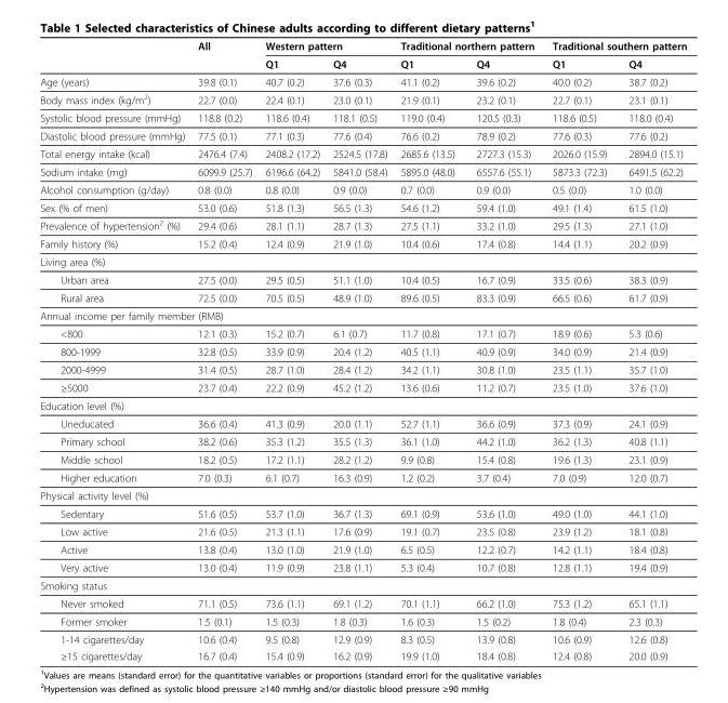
<table><thead><tr><td rowspan="2"></td><td rowspan="2">All</td><td colspan="2">Western pattern</td><td colspan="2">Traditional northern pattern</td><td colspan="2">Traditional southern pattern</td></tr><tr><td>Q1</td><td>Q4</td><td>Q1</td><td>Q4</td><td>Q1</td><td>Q4</td></tr></thead><tbody><tr><td>Age (years)</td><td>39.8 (0.1)</td><td>40.7 (0.2)</td><td>37.6 (0.3)</td><td>41.1 (0.2)</td><td>39.6 (0.2)</td><td>40.0 (0.2)</td><td>38.7 (0.2)</td></tr><tr><td>Body mass index (kg/m<sup>2</sup>)</td><td>22.7 (0.0)</td><td>22.4 (0.1)</td><td>23.0 (0.1)</td><td>21.9 (0.1)</td><td>23.2 (0.1)</td><td>22.7 (0.1)</td><td>23.1 (0.1)</td></tr><tr><td>Systolic blood pressure (mmHg)</td><td>118.8 (0.2)</td><td>118.6 (0.4)</td><td>118.1 (0.5)</td><td>119.0 (0.4)</td><td>120.5 (0.3)</td><td>118.6 (0.5)</td><td>118.0 (0.4)</td></tr><tr><td>Diastolic blood pressure (mmHg)</td><td>77.5 (0.1)</td><td>77.1 (0.3)</td><td>77.6 (0.4)</td><td>76.6 (0.2)</td><td>78.9 (0.2)</td><td>77.6 (0.3)</td><td>77.6 (0.2)</td></tr><tr><td>Total energy intake (kcal)</td><td>2476.4 (7.4)</td><td>2408.2 (17.2)</td><td>2524.5 (17.8)</td><td>2685.6 (13.5)</td><td>2727.3 (15.3)</td><td>2026.0 (15.9)</td><td>2894.0 (15.1)</td></tr><tr><td>Sodium intake (mg)</td><td>6099.9 (25.7)</td><td>6196.6 (64.2)</td><td>5841.0 (58.4)</td><td>5895.0 (48.0)</td><td>6557.6 (55.1)</td><td>5873.3 (72.3)</td><td>6491.5 (62.2)</td></tr><tr><td>Alcohol consumption (g/day)</td><td>0.8 (0.0)</td><td>0.8 (0.0)</td><td>0.9 (0.0)</td><td>0.7 (0.0)</td><td>0.9 (0.0)</td><td>0.5 (0.0)</td><td>1.0 (0.0)</td></tr><tr><td>Sex (% of men)</td><td>53.0 (0.6)</td><td>51.8 (1.3)</td><td>56.5 (1.3)</td><td>54.6 (1.2)</td><td>59.4 (1.0)</td><td>49.1 (1.4)</td><td>61.5 (1.0)</td></tr><tr><td>Prevalence of hypertension<sup>2</sup> (%)</td><td>29.4 (0.6)</td><td>28.1 (1.1)</td><td>28.7 (1.3)</td><td>27.5 (1.1)</td><td>33.2 (1.0)</td><td>29.5 (1.3)</td><td>27.1 (1.0)</td></tr><tr><td>Family history (%)</td><td>15.2 (0.4)</td><td>12.4 (0.9)</td><td>21.9 (1.0)</td><td>10.4 (0.6)</td><td>17.4 (0.8)</td><td>14.4 (1.1)</td><td>20.2 (0.9)</td></tr><tr><td colspan="8">Living area (%)</td></tr><tr><td>Urban area</td><td>27.5 (0.0)</td><td>29.5 (0.5)</td><td>51.1 (1.0)</td><td>10.4 (0.5)</td><td>16.7 (0.9)</td><td>33.5 (0.6)</td><td>38.3 (0.9)</td></tr><tr><td>Rural area</td><td>72.5 (0.0)</td><td>70.5 (0.5)</td><td>48.9 (1.0)</td><td>89.6 (0.5)</td><td>83.3 (0.9)</td><td>66.5 (0.6)</td><td>61.7 (0.9)</td></tr><tr><td colspan="8">Annual income per family member (RMB)</td></tr><tr><td>&lt;800</td><td>12.1 (0.3)</td><td>15.2 (0.7)</td><td>6.1 (0.7)</td><td>11.7 (0.8)</td><td>17.1 (0.7)</td><td>18.9 (0.6)</td><td>5.3 (0.6)</td></tr><tr><td>800-1999</td><td>32.8 (0.5)</td><td>33.9 (0.9)</td><td>20.4 (1.2)</td><td>40.5 (1.1)</td><td>40.9 (0.9)</td><td>34.0 (0.9)</td><td>21.4 (0.9)</td></tr><tr><td>2000-4999</td><td>31.4 (0.5)</td><td>28.7 (1.0)</td><td>28.4 (1.2)</td><td>34.2 (1.1)</td><td>30.8 (1.0)</td><td>23.5 (1.1)</td><td>35.7 (1.0)</td></tr><tr><td>≥5000</td><td>23.7 (0.4)</td><td>22.2 (0.9)</td><td>45.2 (1.2)</td><td>13.6 (0.6)</td><td>11.2 (0.7)</td><td>23.5 (1.0)</td><td>37.6 (1.0)</td></tr><tr><td colspan="8">Education level (%)</td></tr><tr><td>Uneducated</td><td>36.6 (0.4)</td><td>41.3 (0.9)</td><td>20.0 (1.1)</td><td>52.7 (1.1)</td><td>36.6 (0.9)</td><td>37.3 (0.9)</td><td>24.1 (0.9)</td></tr><tr><td>Primary school</td><td>38.2 (0.6)</td><td>35.3 (1.2)</td><td>35.5 (1.3)</td><td>36.1 (1.0)</td><td>44.2 (1.0)</td><td>36.2 (1.3)</td><td>40.8 (1.1)</td></tr><tr><td>Middle school</td><td>18.2 (0.5)</td><td>17.2 (1.1)</td><td>28.2 (1.2)</td><td>9.9 (0.8)</td><td>15.4 (0.8)</td><td>19.6 (1.3)</td><td>23.1 (0.9)</td></tr><tr><td>Higher education</td><td>7.0 (0.3)</td><td>6.1 (0.7)</td><td>16.3 (0.9)</td><td>1.2 (0.2)</td><td>3.7 (0.4)</td><td>7.0 (0.9)</td><td>12.0 (0.7)</td></tr><tr><td colspan="8">Physical activity level (%)</td></tr><tr><td>Sedentary</td><td>51.6 (0.5)</td><td>53.7 (1.0)</td><td>36.7 (1.3)</td><td>69.1 (0.9)</td><td>53.6 (1.0)</td><td>49.0 (1.0)</td><td>44.1 (1.0)</td></tr><tr><td>Low active</td><td>21.6 (0.5)</td><td>21.3 (1.1)</td><td>17.6 (0.9)</td><td>19.1 (0.7)</td><td>23.5 (0.8)</td><td>23.9 (1.2)</td><td>18.1 (0.8)</td></tr><tr><td>Active</td><td>13.8 (0.4)</td><td>13.0 (1.0)</td><td>21.9 (1.0)</td><td>6.5 (0.5)</td><td>12.2 (0.7)</td><td>14.2 (1.1)</td><td>18.4 (0.8)</td></tr><tr><td>Very active</td><td>13.0 (0.4)</td><td>11.9 (0.9)</td><td>23.8 (1.1)</td><td>5.3 (0.4)</td><td>10.7 (0.8)</td><td>12.8 (1.1)</td><td>19.4 (0.9)</td></tr><tr><td colspan="8">Smoking status</td></tr><tr><td>Never smoked</td><td>71.1 (0.5)</td><td>73.6 (1.1)</td><td>69.1 (1.2)</td><td>70.1 (1.1)</td><td>66.2 (1.0)</td><td>75.3 (1.2)</td><td>65.1 (1.1)</td></tr><tr><td>Former smoker</td><td>1.5 (0.1)</td><td>1.5 (0.3)</td><td>1.8 (0.3)</td><td>1.6 (0.3)</td><td>1.5 (0.2)</td><td>1.8 (0.4)</td><td>2.3 (0.3)</td></tr><tr><td>1-14 cigarettes/day</td><td>10.6 (0.4)</td><td>9.5 (0.8)</td><td>12.9 (0.9)</td><td>8.3 (0.5)</td><td>13.9 (0.8)</td><td>10.6 (0.9)</td><td>12.6 (0.8)</td></tr><tr><td>≥15 cigarettes/day</td><td>16.7 (0.4)</td><td>15.4 (0.9)</td><td>16.2 (0.9)</td><td>19.9 (1.0)</td><td>18.4 (0.8)</td><td>12.4 (0.8)</td><td>20.0 (0.9)</td></tr></tbody></table>